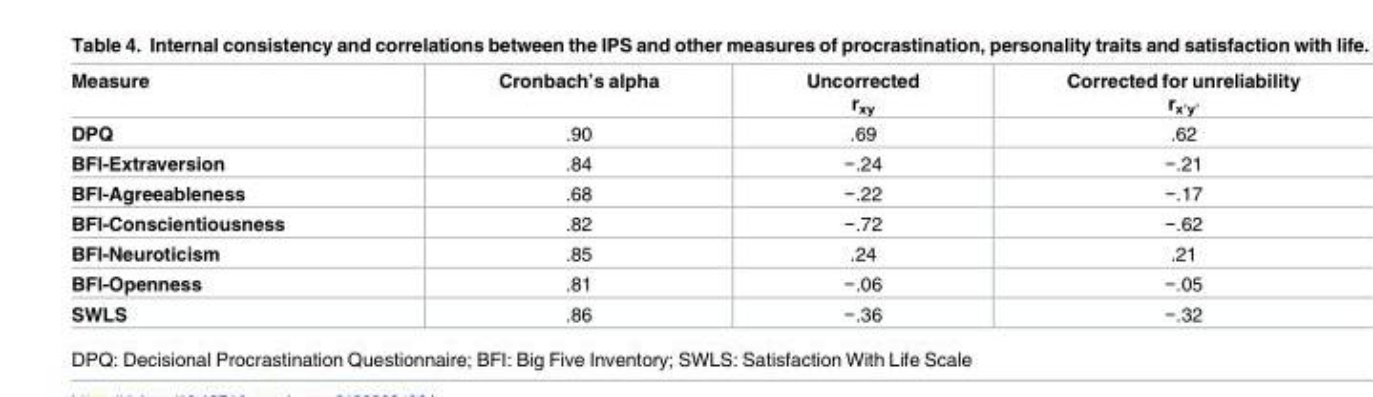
<table><thead><tr><td>Measure</td><td>Cronbach’s alpha</td><td>Uncorrected r<sub>xy</sub></td><td>Corrected for unreliability r<sub>x’y’</sub></td></tr></thead><tbody><tr><td>DPQ</td><td>.90</td><td>.69</td><td>.62</td></tr><tr><td>BFI-Extraversion</td><td>.84</td><td>−.24</td><td>−.21</td></tr><tr><td>BFI-Agreeableness</td><td>.68</td><td>−.22</td><td>−.17</td></tr><tr><td>BFI-Conscientiousness</td><td>.82</td><td>−.72</td><td>−.62</td></tr><tr><td>BFI-Neuroticism</td><td>.85</td><td>.24</td><td>.21</td></tr><tr><td>BFI-Openness</td><td>.81</td><td>−.06</td><td>−.05</td></tr><tr><td>SWLS</td><td>.86</td><td>−.36</td><td>−.32</td></tr></tbody></table>